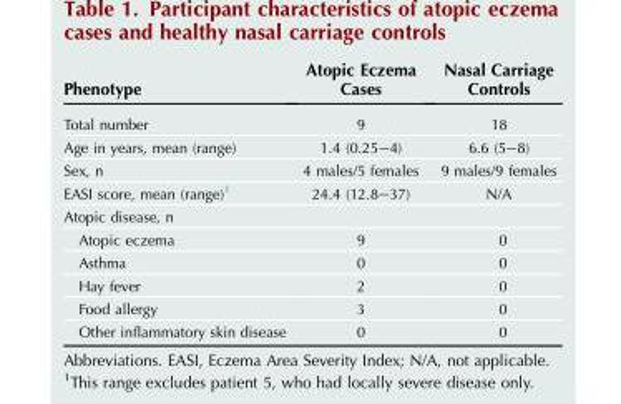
<table><thead><tr><td>Phenotype</td><td>Atopic Eczema Cases</td><td>Nasal Carriage Controls</td></tr></thead><tbody><tr><td>Total number</td><td>9</td><td>18</td></tr><tr><td>Age in years, mean (range)</td><td>1.4 (0.25–4)</td><td>6.6 (5–8)</td></tr><tr><td>Sex, n</td><td>4 males/5 females</td><td>9 males/9 females</td></tr><tr><td>EASI score, mean (range)<sup>1</sup></td><td>24.4 (12.8–37)</td><td>N/A</td></tr><tr><td colspan="3">Atopic disease, n</td></tr><tr><td>Atopic eczema</td><td>9</td><td>0</td></tr><tr><td>Asthma</td><td>0</td><td>0</td></tr><tr><td>Hay fever</td><td>2</td><td>0</td></tr><tr><td>Food allergy</td><td>3</td><td>0</td></tr><tr><td>Other inflammatory skin disease</td><td>0</td><td>0</td></tr></tbody></table>